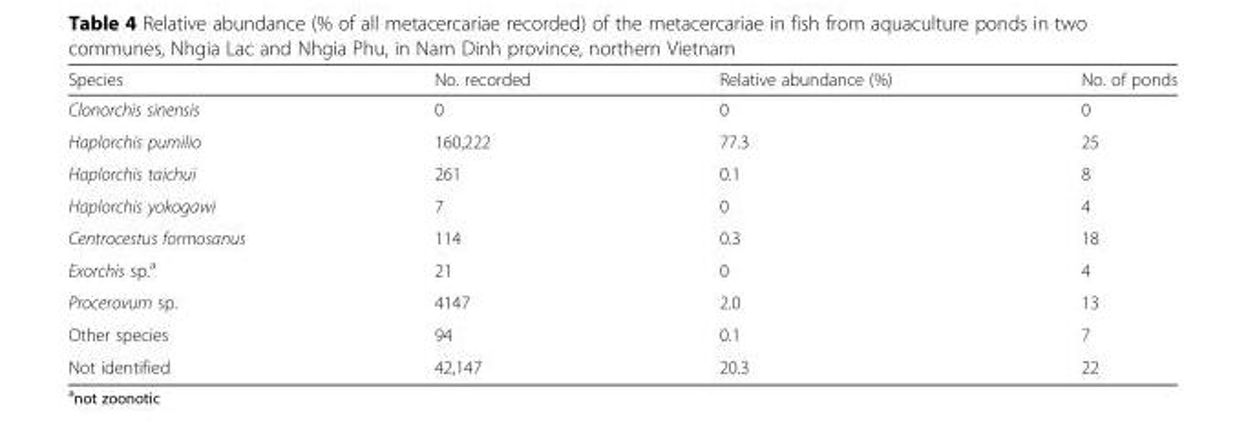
<table><thead><tr><td>Species</td><td>No. recorded</td><td>Relative abundance (%)</td><td>No. of ponds</td></tr></thead><tbody><tr><td>Clonorchis sinensis</td><td>0</td><td>0</td><td>0</td></tr><tr><td>Haplorchis pumilio</td><td>160,222</td><td>77.3</td><td>25</td></tr><tr><td>Haplorchis taichui</td><td>261</td><td>0.1</td><td>8</td></tr><tr><td>Haplorchis yokogawi</td><td>7</td><td>0</td><td>4</td></tr><tr><td>Centrocestus formosanus</td><td>114</td><td>0.3</td><td>18</td></tr><tr><td>Exorchis sp.<sup>a</sup></td><td>21</td><td>0</td><td>4</td></tr><tr><td>Procerovum sp.</td><td>4147</td><td>2.0</td><td>13</td></tr><tr><td>Other species</td><td>94</td><td>0.1</td><td>7</td></tr><tr><td>Not identified</td><td>42,147</td><td>20.3</td><td>22</td></tr></tbody></table>